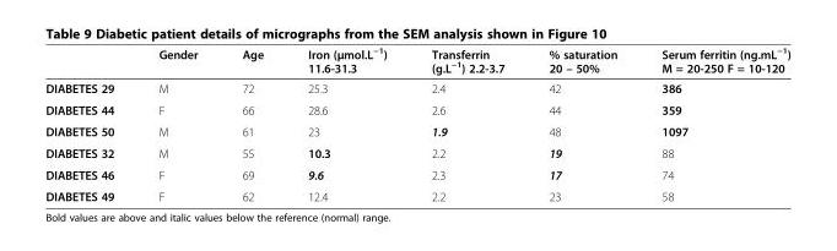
<table><thead><tr><td></td><td>Gender</td><td>Age</td><td>Iron (μmol.L<sup>−1</sup>) 11.6-31.3</td><td>Transferrin (g.L<sup>−1</sup>) 2.2-3.7</td><td>% saturation 20 – 50%</td><td>Serum ferritin (ng.mL<sup>−1</sup>) M = 20-250 F = 10-120</td></tr></thead><tbody><tr><td>DIABETES 29</td><td>M</td><td>72</td><td>25.3</td><td>2.4</td><td>42</td><td>386</td></tr><tr><td>DIABETES 44</td><td>F</td><td>66</td><td>28.6</td><td>2.6</td><td>44</td><td>359</td></tr><tr><td>DIABETES 50</td><td>M</td><td>61</td><td>23</td><td>1.9</td><td>48</td><td>1097</td></tr><tr><td>DIABETES 32</td><td>M</td><td>55</td><td>10.3</td><td>2.2</td><td>19</td><td>88</td></tr><tr><td>DIABETES 46</td><td>F</td><td>69</td><td>9.6</td><td>2.3</td><td>17</td><td>74</td></tr><tr><td>DIABETES 49</td><td>F</td><td>62</td><td>12.4</td><td>2.2</td><td>23</td><td>58</td></tr></tbody></table>